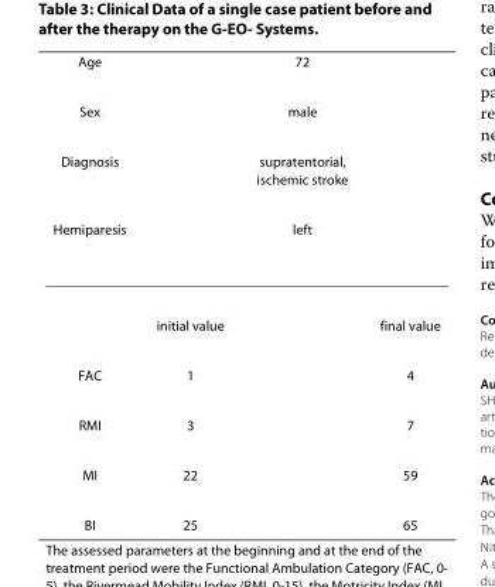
<table><thead><tr><td rowspan="4">Age Sex Diagnosis Hemiparesis</td><td rowspan="4"></td><td rowspan="4">72 male supratentorial, ischemic stroke left</td><td rowspan="4"></td></tr><tr></tr><tr></tr><tr></tr></thead><tbody><tr><td></td><td>initial value</td><td></td><td>final value</td></tr><tr><td>FAC</td><td>1</td><td></td><td>4</td></tr><tr><td>RMI</td><td>3</td><td></td><td>7</td></tr><tr><td>MI</td><td>22</td><td></td><td>59</td></tr><tr><td>BI</td><td>25</td><td></td><td>65</td></tr></tbody></table>